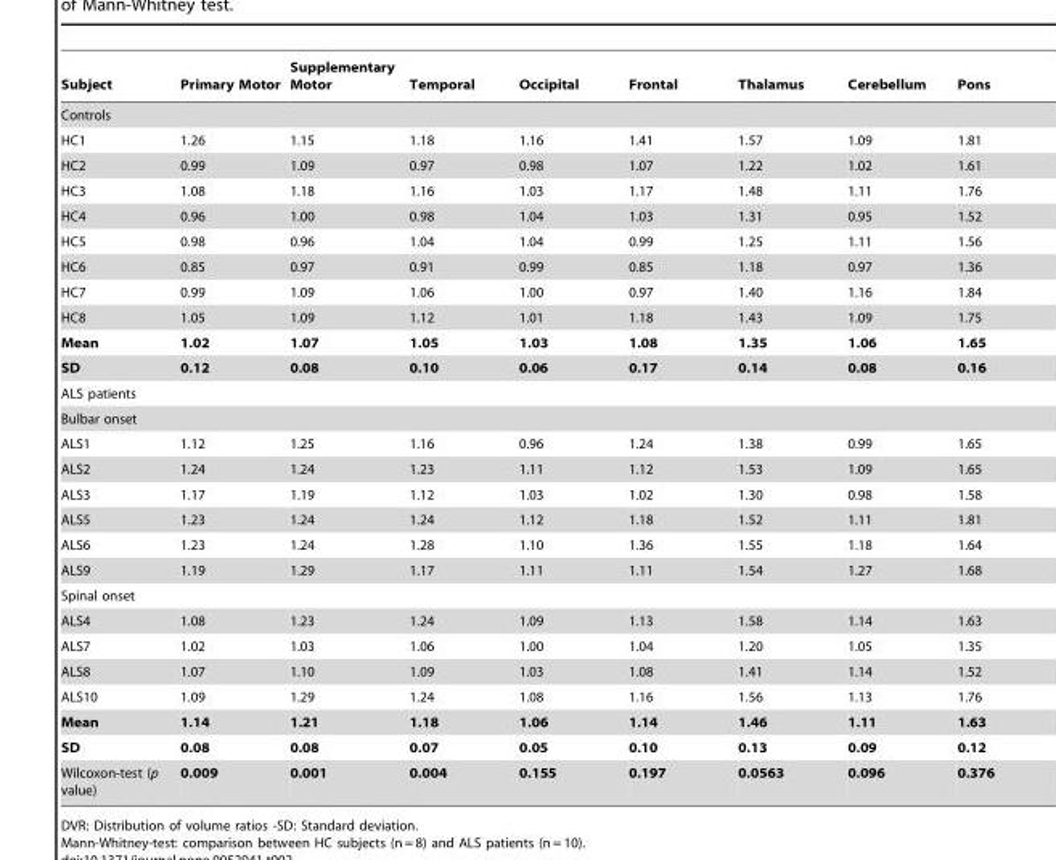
<table><thead><tr><td>Subject</td><td>Primary Motor</td><td>Supplementary Motor</td><td>Temporal</td><td>Occipital</td><td>Frontal</td><td>Thalamus</td><td>Cerebellum</td><td>Pons</td></tr></thead><tbody><tr><td colspan="9">Controls</td></tr><tr><td>HC1</td><td>1.26</td><td>1.15</td><td>1.18</td><td>1.16</td><td>1.41</td><td>1.57</td><td>1.09</td><td>1.81</td></tr><tr><td>HC2</td><td>0.99</td><td>1.09</td><td>0.97</td><td>0.98</td><td>1.07</td><td>1.22</td><td>1.02</td><td>1.61</td></tr><tr><td>HC3</td><td>1.08</td><td>1.18</td><td>1.16</td><td>1.03</td><td>1.17</td><td>1.48</td><td>1.11</td><td>1.76</td></tr><tr><td>HC4</td><td>0.96</td><td>1.00</td><td>0.98</td><td>1.04</td><td>1.03</td><td>1.31</td><td>0.95</td><td>1.52</td></tr><tr><td>HC5</td><td>0.98</td><td>0.96</td><td>1.04</td><td>1.04</td><td>0.99</td><td>1.25</td><td>1.11</td><td>1.56</td></tr><tr><td>HC6</td><td>0.85</td><td>0.97</td><td>0.91</td><td>0.99</td><td>0.85</td><td>1.18</td><td>0.97</td><td>1.36</td></tr><tr><td>HC7</td><td>0.99</td><td>1.09</td><td>1.06</td><td>1.00</td><td>0.97</td><td>1.40</td><td>1.16</td><td>1.84</td></tr><tr><td>HC8</td><td>1.05</td><td>1.09</td><td>1.12</td><td>1.01</td><td>1.18</td><td>1.43</td><td>1.09</td><td>1.75</td></tr><tr><td>Mean</td><td>1.02</td><td>1.07</td><td>1.05</td><td>1.03</td><td>1.08</td><td>1.35</td><td>1.06</td><td>1.65</td></tr><tr><td>SD</td><td>0.12</td><td>0.08</td><td>0.10</td><td>0.06</td><td>0.17</td><td>0.14</td><td>0.08</td><td>0.16</td></tr><tr><td colspan="9">ALS patients</td></tr><tr><td colspan="9">Bulbar onset</td></tr><tr><td>ALS1</td><td>1.12</td><td>1.25</td><td>1.16</td><td>0.96</td><td>1.24</td><td>1.38</td><td>0.99</td><td>1.65</td></tr><tr><td>ALS2</td><td>1.24</td><td>1.24</td><td>1.23</td><td>1.11</td><td>1.12</td><td>1.53</td><td>1.09</td><td>1.65</td></tr><tr><td>ALS3</td><td>1.17</td><td>1.19</td><td>1.12</td><td>1.03</td><td>1.02</td><td>1.30</td><td>0.98</td><td>1.58</td></tr><tr><td>ALS5</td><td>1.23</td><td>1.24</td><td>1.24</td><td>1.12</td><td>1.18</td><td>1.52</td><td>1.11</td><td>1.81</td></tr><tr><td>ALS6</td><td>1.23</td><td>1.24</td><td>1.28</td><td>1.10</td><td>1.36</td><td>1.55</td><td>1.18</td><td>1.64</td></tr><tr><td>ALS9</td><td>1.19</td><td>1.29</td><td>1.17</td><td>1.11</td><td>1.11</td><td>1.54</td><td>1.27</td><td>1.68</td></tr><tr><td colspan="9">Spinal onset</td></tr><tr><td>ALS4</td><td>1.08</td><td>1.23</td><td>1.24</td><td>1.09</td><td>1.13</td><td>1.58</td><td>1.14</td><td>1.63</td></tr><tr><td>ALS7</td><td>1.02</td><td>1.03</td><td>1.06</td><td>1.00</td><td>1.04</td><td>1.20</td><td>1.05</td><td>1.35</td></tr><tr><td>ALS8</td><td>1.07</td><td>1.10</td><td>1.09</td><td>1.03</td><td>1.08</td><td>1.41</td><td>1.14</td><td>1.52</td></tr><tr><td>ALS10</td><td>1.09</td><td>1.29</td><td>1.24</td><td>1.08</td><td>1.16</td><td>1.56</td><td>1.13</td><td>1.76</td></tr><tr><td>Mean</td><td>1.14</td><td>1.21</td><td>1.18</td><td>1.06</td><td>1.14</td><td>1.46</td><td>1.11</td><td>1.63</td></tr><tr><td>SD</td><td>0.08</td><td>0.08</td><td>0.07</td><td>0.05</td><td>0.10</td><td>0.13</td><td>0.09</td><td>0.12</td></tr><tr><td>Wilcoxon-test (p value)</td><td>0.009</td><td>0.001</td><td>0.004</td><td>0.155</td><td>0.197</td><td>0.0563</td><td>0.096</td><td>0.376</td></tr></tbody></table>